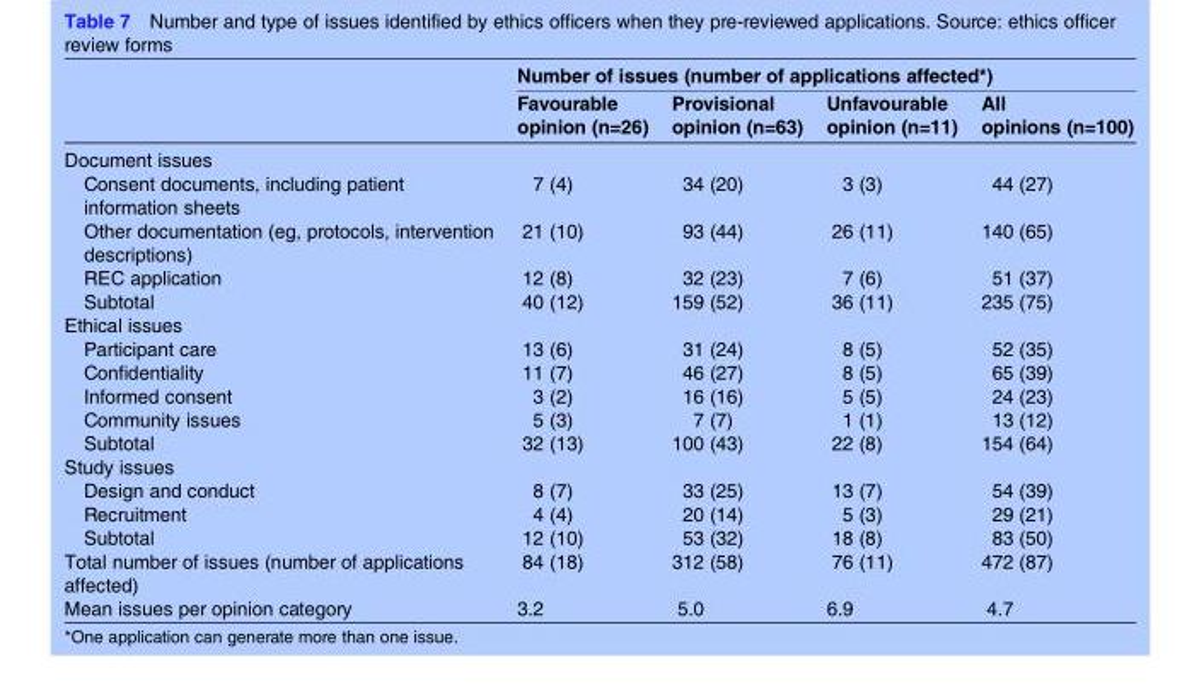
<table><thead><tr><td rowspan="2"></td><td colspan="4">Number of issues (number of applications affected*)</td></tr><tr><td>Favourable opinion (n=26)</td><td>Provisional opinion (n=63)</td><td>Unfavourable opinion (n=11)</td><td>All opinions (n=100)</td></tr></thead><tbody><tr><td colspan="5">Document issues</td></tr><tr><td>Consent documents, including patient information sheets</td><td>7 (4)</td><td>34 (20)</td><td>3 (3)</td><td>44 (27)</td></tr><tr><td>Other documentation (eg, protocols, intervention descriptions)</td><td>21 (10)</td><td>93 (44)</td><td>26 (11)</td><td>140 (65)</td></tr><tr><td>REC application</td><td>12 (8)</td><td>32 (23)</td><td>7 (6)</td><td>51 (37)</td></tr><tr><td>Subtotal</td><td>40 (12)</td><td>159 (52)</td><td>36 (11)</td><td>235 (75)</td></tr><tr><td colspan="5">Ethical issues</td></tr><tr><td>Participant care</td><td>13 (6)</td><td>31 (24)</td><td>8 (5)</td><td>52 (35)</td></tr><tr><td>Confidentiality</td><td>11 (7)</td><td>46 (27)</td><td>8 (5)</td><td>65 (39)</td></tr><tr><td>Informed consent</td><td>3 (2)</td><td>16 (16)</td><td>5 (5)</td><td>24 (23)</td></tr><tr><td>Community issues</td><td>5 (3)</td><td>7 (7)</td><td>1 (1)</td><td>13 (12)</td></tr><tr><td>Subtotal</td><td>32 (13)</td><td>100 (43)</td><td>22 (8)</td><td>154 (64)</td></tr><tr><td colspan="5">Study issues</td></tr><tr><td>Design and conduct</td><td>8 (7)</td><td>33 (25)</td><td>13 (7)</td><td>54 (39)</td></tr><tr><td>Recruitment</td><td>4 (4)</td><td>20 (14)</td><td>5 (3)</td><td>29 (21)</td></tr><tr><td>Subtotal</td><td>12 (10)</td><td>53 (32)</td><td>18 (8)</td><td>83 (50)</td></tr><tr><td>Total number of issues (number of applications affected)</td><td>84 (18)</td><td>312 (58)</td><td>76 (11)</td><td>472 (87)</td></tr><tr><td>Mean issues per opinion category</td><td>3.2</td><td>5.0</td><td>6.9</td><td>4.7</td></tr></tbody></table>